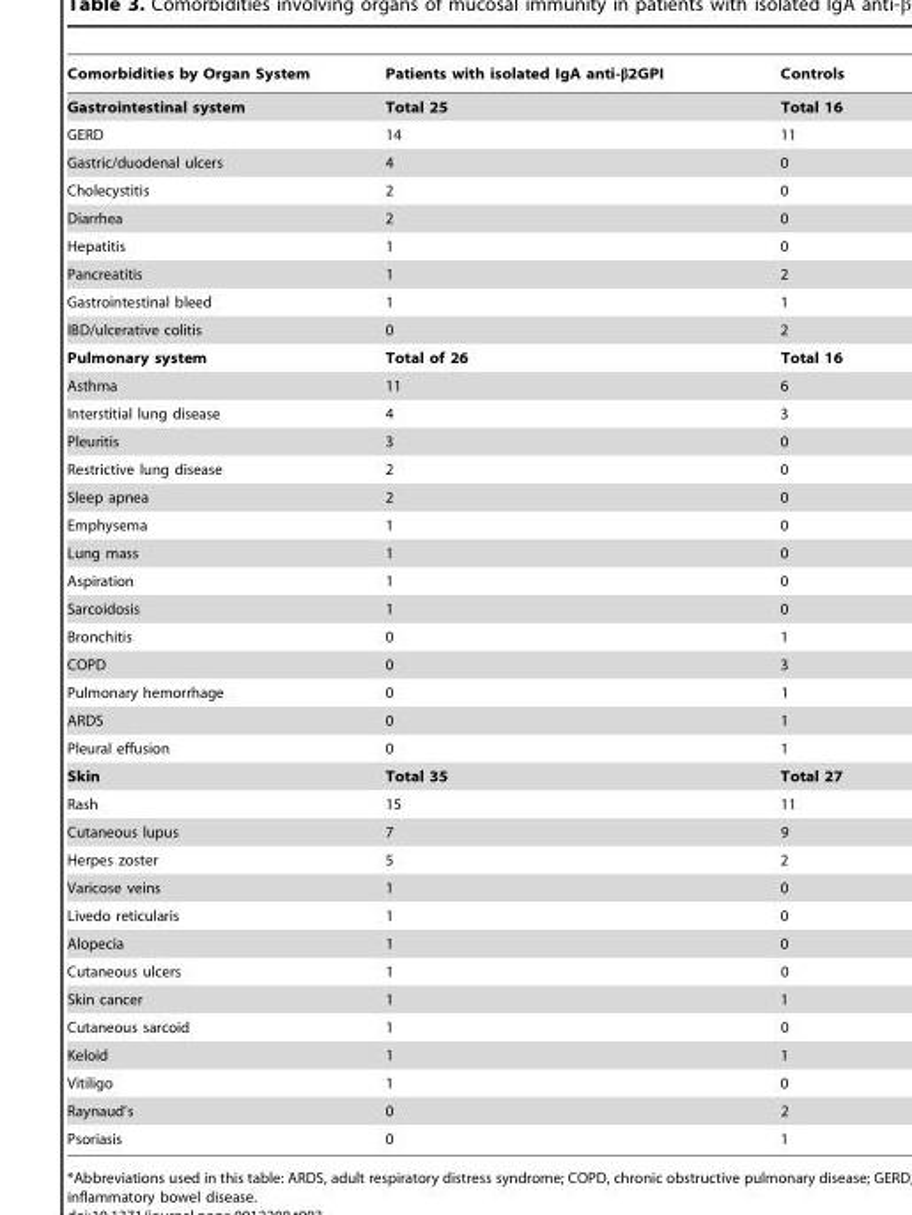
<table><thead><tr><td>Comorbidities by Organ System</td><td>Patients with isolated IgA anti-β2GPI</td><td>Controls</td></tr></thead><tbody><tr><td>Gastrointestinal system</td><td>Total 25</td><td>Total 16</td></tr><tr><td>GERD</td><td>14</td><td>11</td></tr><tr><td>Gastric/duodenal ulcers</td><td>4</td><td>0</td></tr><tr><td>Cholecystitis</td><td>2</td><td>0</td></tr><tr><td>Diarrhea</td><td>2</td><td>0</td></tr><tr><td>Hepatitis</td><td>1</td><td>0</td></tr><tr><td>Pancreatitis</td><td>1</td><td>2</td></tr><tr><td>Gastrointestinal bleed</td><td>1</td><td>1</td></tr><tr><td>IBD/ulcerative colitis</td><td>0</td><td>2</td></tr><tr><td>Pulmonary system</td><td>Total of 26</td><td>Total 16</td></tr><tr><td>Asthma</td><td>11</td><td>6</td></tr><tr><td>Interstitial lung disease</td><td>4</td><td>3</td></tr><tr><td>Pleuritis</td><td>3</td><td>0</td></tr><tr><td>Restrictive lung disease</td><td>2</td><td>0</td></tr><tr><td>Sleep apnea</td><td>2</td><td>0</td></tr><tr><td>Emphysema</td><td>1</td><td>0</td></tr><tr><td>Lung mass</td><td>1</td><td>0</td></tr><tr><td>Aspiration</td><td>1</td><td>0</td></tr><tr><td>Sarcoidosis</td><td>1</td><td>0</td></tr><tr><td>Bronchitis</td><td>0</td><td>1</td></tr><tr><td>COPD</td><td>0</td><td>3</td></tr><tr><td>Pulmonary hemorrhage</td><td>0</td><td>1</td></tr><tr><td>ARDS</td><td>0</td><td>1</td></tr><tr><td>Pleural effusion</td><td>0</td><td>1</td></tr><tr><td>Skin</td><td>Total 35</td><td>Total 27</td></tr><tr><td>Rash</td><td>15</td><td>11</td></tr><tr><td>Cutaneous lupus</td><td>7</td><td>9</td></tr><tr><td>Herpes zoster</td><td>5</td><td>2</td></tr><tr><td>Varicose veins</td><td>1</td><td>0</td></tr><tr><td>Livedo reticularis</td><td>1</td><td>0</td></tr><tr><td>Alopecia</td><td>1</td><td>0</td></tr><tr><td>Cutaneous ulcers</td><td>1</td><td>0</td></tr><tr><td>Skin cancer</td><td>1</td><td>1</td></tr><tr><td>Cutaneous sarcoid</td><td>1</td><td>0</td></tr><tr><td>Keloid</td><td>1</td><td>1</td></tr><tr><td>Vitiligo</td><td>1</td><td>0</td></tr><tr><td>Raynaud’s</td><td>0</td><td>2</td></tr><tr><td>Psoriasis</td><td>0</td><td>1</td></tr></tbody></table>